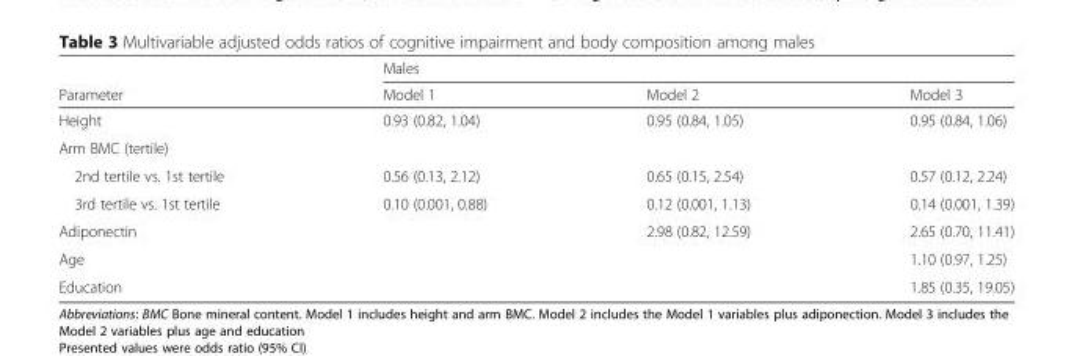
<table><thead><tr><td rowspan="2">Parameter</td><td colspan="3">Males</td></tr><tr><td>Model 1</td><td>Model 2</td><td>Model 3</td></tr></thead><tbody><tr><td>Height</td><td>0.93 (0.82, 1.04)</td><td>0.95 (0.84, 1.05)</td><td>0.95 (0.84, 1.06)</td></tr><tr><td colspan="4">Arm BMC (tertile)</td></tr><tr><td>2nd tertile vs. 1st tertile</td><td>0.56 (0.13, 2.12)</td><td>0.65 (0.15, 2.54)</td><td>0.57 (0.12, 2.24)</td></tr><tr><td>3rd tertile vs. 1st tertile</td><td>0.10 (0.001, 0.88)</td><td>0.12 (0.001, 1.13)</td><td>0.14 (0.001, 1.39)</td></tr><tr><td>Adiponectin</td><td></td><td>2.98 (0.82, 12.59)</td><td>2.65 (0.70, 11.41)</td></tr><tr><td>Age</td><td></td><td></td><td>1.10 (0.97, 1.25)</td></tr><tr><td>Education</td><td></td><td></td><td>1.85 (0.35, 19.05)</td></tr></tbody></table>